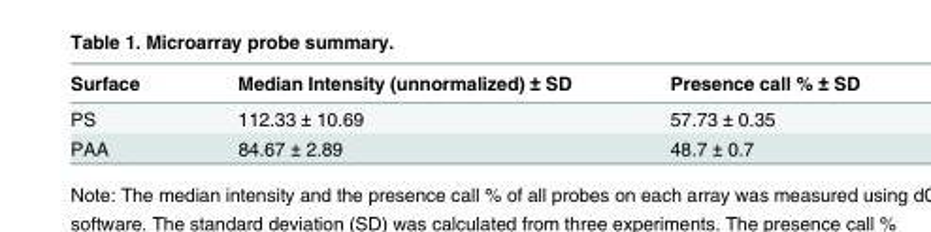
<table><thead><tr><td>Surface</td><td>Median Intensity (unnormalized) ± SD</td><td>Presence call % ± SD</td></tr></thead><tbody><tr><td>PS</td><td>112.33 ± 10.69</td><td>57.73 ± 0.35</td></tr><tr><td>PAA</td><td>84.67 ± 2.89</td><td>48.7 ± 0.7</td></tr></tbody></table>